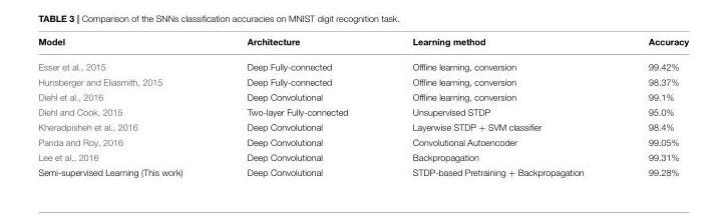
<table><thead><tr><td>Model</td><td>Architecture</td><td>Learning method</td><td>Accuracy</td></tr></thead><tbody><tr><td>Esser et al., 2015</td><td>Deep Fully-connected</td><td>Offline learning, conversion</td><td>99.42%</td></tr><tr><td>Hunsberger and Eliasmith, 2015</td><td>Deep Fully-connected</td><td>Offline learning, conversion</td><td>98.37%</td></tr><tr><td>Diehl et al., 2016</td><td>Deep Convolutional</td><td>Offline learning, conversion</td><td>99.1%</td></tr><tr><td>Diehl and Cook, 2015</td><td>Two-layer Fully-connected</td><td>Unsupervised STDP</td><td>95.0%</td></tr><tr><td>Kheradpisheh et al., 2016</td><td>Deep Convolutional</td><td>Layerwise STDP + SVM classifier</td><td>98.4%</td></tr><tr><td>Panda and Roy, 2016</td><td>Deep Convolutional</td><td>Convolutional Autoencoder</td><td>99.05%</td></tr><tr><td>Lee et al., 2016</td><td>Deep Convolutional</td><td>Backpropagation</td><td>99.31%</td></tr><tr><td>Semi-supervised Learning (This work)</td><td>Deep Convolutional</td><td>STDP-based Pretraining + Backpropagation</td><td>99.28%</td></tr></tbody></table>